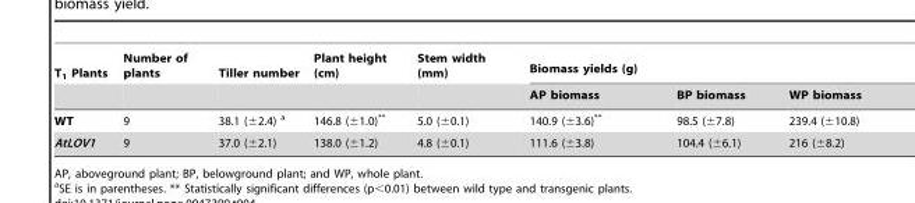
<table><thead><tr><td rowspan="2">T<sub>1</sub> Plants</td><td rowspan="2">Number of plants</td><td rowspan="2">Tiller number</td><td rowspan="2">Plant height (cm)</td><td rowspan="2">Stem width (mm)</td><td colspan="3">Biomass yields (g)</td></tr><tr><td>AP biomass</td><td>BP biomass</td><td>WP biomass</td></tr></thead><tbody><tr><td>WT</td><td>9</td><td>38.1 (±2.4) a</td><td>146.8 (±1.0)**</td><td>5.0 (±0.1)</td><td>140.9 (±3.6)**</td><td>98.5 (±7.8)</td><td>239.4 (±10.8)</td></tr><tr><td>AtLOV1</td><td>9</td><td>37.0 (±2.1)</td><td>138.0 (±1.2)</td><td>4.8 (±0.1)</td><td>111.6 (±3.8)</td><td>104.4 (±6.1)</td><td>216 (±8.2)</td></tr></tbody></table>